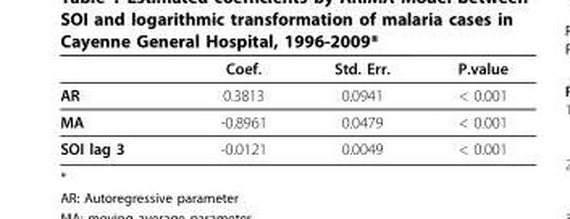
<table><thead><tr><td></td><td>Coef.</td><td>Std. Err.</td><td>P.value</td></tr></thead><tbody><tr><td>AR</td><td>0.3813</td><td>0.0941</td><td>&lt; 0.001</td></tr><tr><td>MA</td><td>-0.8961</td><td>0.0479</td><td>&lt; 0.001</td></tr><tr><td>SOI lag 3</td><td>-0.0121</td><td>0.0049</td><td>&lt; 0.001</td></tr></tbody></table>